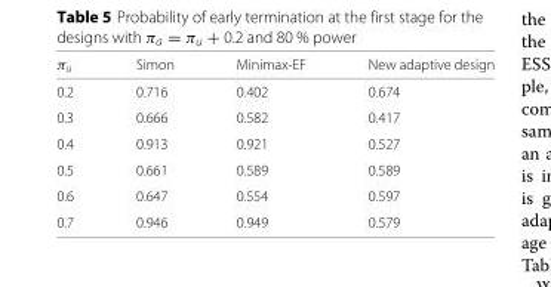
<table><thead><tr><td>π<sub>u</sub></td><td>Simon</td><td>Minimax-EF</td><td>New adaptive design</td></tr></thead><tbody><tr><td>0.2</td><td>0.716</td><td>0.402</td><td>0.674</td></tr><tr><td>0.3</td><td>0.666</td><td>0.582</td><td>0.417</td></tr><tr><td>0.4</td><td>0.913</td><td>0.921</td><td>0.527</td></tr><tr><td>0.5</td><td>0.661</td><td>0.589</td><td>0.589</td></tr><tr><td>0.6</td><td>0.647</td><td>0.554</td><td>0.597</td></tr><tr><td>0.7</td><td>0.946</td><td>0.949</td><td>0.579</td></tr></tbody></table>